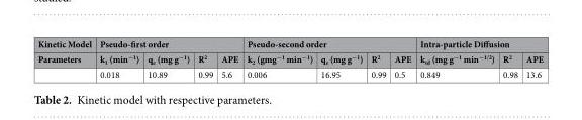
<table><thead><tr><td rowspan="2">Kinetic Model Parameters</td><td colspan="4">Pseudo-first order</td><td colspan="4">Pseudo-second order</td><td colspan="3">Intra-particle Diffusion</td></tr><tr><td>k<sub>1</sub> (min<sup>−1</sup>)</td><td>q<sub>e</sub> (mg g<sup>−1</sup>)</td><td>R<sup>2</sup></td><td>APE</td><td>k<sub>2</sub> (gmg<sup>−1</sup> min<sup>−1</sup>)</td><td>q<sub>e</sub> (mg g<sup>−1</sup>)</td><td>R<sup>2</sup></td><td>APE</td><td>k<sub>id</sub> (mg g<sup>−1</sup> min<sup>−1/2</sup>)</td><td>R<sup>2</sup></td><td>APE</td></tr></thead><tbody><tr><td></td><td>0.018</td><td>10.89</td><td>0.99</td><td>5.6</td><td>0.006</td><td>16.95</td><td>0.99</td><td>0.5</td><td>0.849</td><td>0.98</td><td>13.6</td></tr></tbody></table>